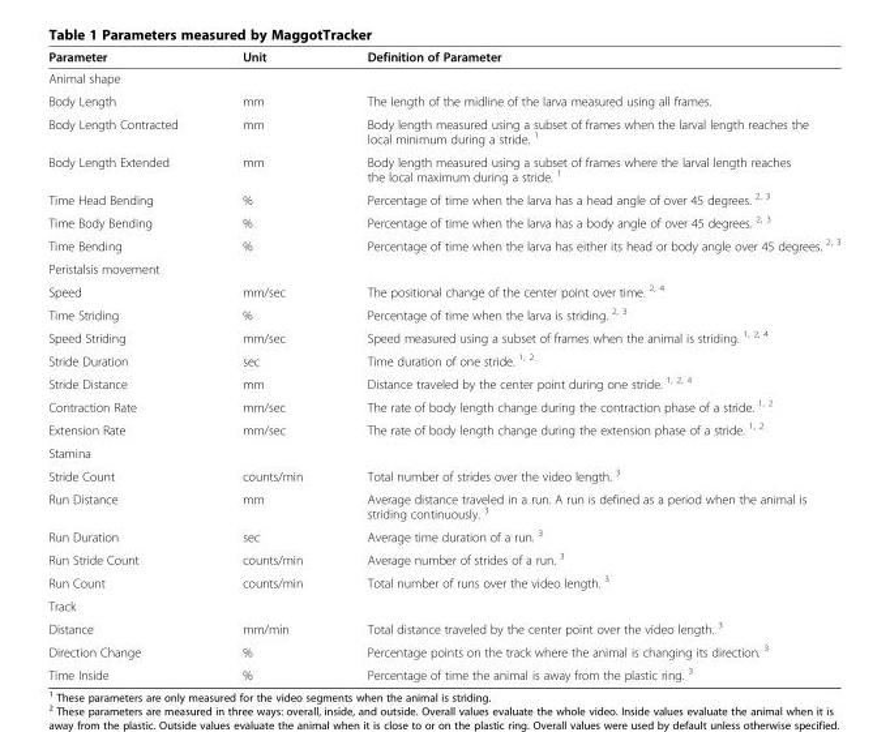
<table><thead><tr><td>Parameter</td><td>Unit</td><td>Definition of Parameter</td></tr></thead><tbody><tr><td colspan="3">Animal shape</td></tr><tr><td>Body Length</td><td>mm</td><td>The length of the midline of the larva measured using all frames.</td></tr><tr><td>Body Length Contracted</td><td>mm</td><td>Body length measured using a subset of frames when the larval length reaches the local minimum during a stride. <sup>1</sup></td></tr><tr><td>Body Length Extended</td><td>mm</td><td>Body length measured using a subset of frames where the larval length reaches the local maximum during a stride. <sup>1</sup></td></tr><tr><td>Time Head Bending</td><td>%</td><td>Percentage of time when the larva has a head angle of over 45 degrees. <sup>2, 3</sup></td></tr><tr><td>Time Body Bending</td><td>%</td><td>Percentage of time when the larva has a body angle of over 45 degrees. <sup>2, 3</sup></td></tr><tr><td>Time Bending</td><td>%</td><td>Percentage of time when the larva has either its head or body angle over 45 degrees. <sup>2, 3</sup></td></tr><tr><td colspan="3">Peristalsis movement</td></tr><tr><td>Speed</td><td>mm/sec</td><td>The positional change of the center point over time. <sup>2, 4</sup></td></tr><tr><td>Time Striding</td><td>%</td><td>Percentage of time when the larva is striding. <sup>2, 3</sup></td></tr><tr><td>Speed Striding</td><td>mm/sec</td><td>Speed measured using a subset of frames when the animal is striding. <sup>1, 2, 4</sup></td></tr><tr><td>Stride Duration</td><td>sec</td><td>Time duration of one stride. <sup>1, 2</sup></td></tr><tr><td>Stride Distance</td><td>mm</td><td>Distance traveled by the center point during one stride. <sup>1, 2, 4</sup></td></tr><tr><td>Contraction Rate</td><td>mm/sec</td><td>The rate of body length change during the contraction phase of a stride. <sup>1, 2</sup></td></tr><tr><td>Extension Rate</td><td>mm/sec</td><td>The rate of body length change during the extension phase of a stride. <sup>1, 2</sup></td></tr><tr><td colspan="3">Stamina</td></tr><tr><td>Stride Count</td><td>counts/min</td><td>Total number of strides over the video length. <sup>3</sup></td></tr><tr><td>Run Distance</td><td>mm</td><td>Average distance traveled in a run. A run is defined as a period when the animal is striding continuously. <sup>3</sup></td></tr><tr><td>Run Duration</td><td>sec</td><td>Average time duration of a run. <sup>3</sup></td></tr><tr><td>Run Stride Count</td><td>counts/min</td><td>Average number of strides of a run. <sup>3</sup></td></tr><tr><td>Run Count</td><td>counts/min</td><td>Total number of runs over the video length. <sup>3</sup></td></tr><tr><td colspan="3">Track</td></tr><tr><td>Distance</td><td>mm/min</td><td>Total distance traveled by the center point over the video length. <sup>3</sup></td></tr><tr><td>Direction Change</td><td>%</td><td>Percentage points on the track where the animal is changing its direction. <sup>3</sup></td></tr><tr><td>Time Inside</td><td>%</td><td>Percentage of time the animal is away from the plastic ring. <sup>3</sup></td></tr></tbody></table>